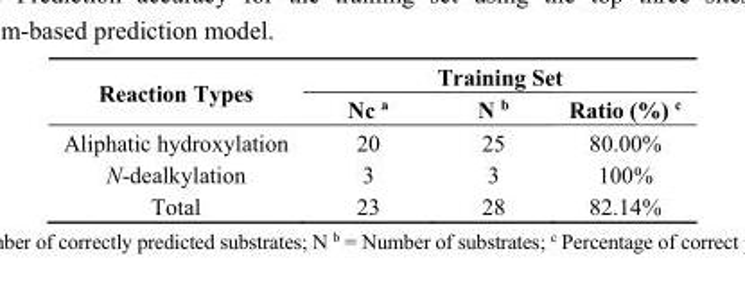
<table><thead><tr><td rowspan="2">Reaction Types</td><td colspan="3">Training Set</td></tr><tr><td>Nc <sup>a</sup></td><td>N <sup>b</sup></td><td>Ratio (%) <sup>c</sup></td></tr></thead><tbody><tr><td>Aliphatic hydroxylation</td><td>20</td><td>25</td><td>80.00%</td></tr><tr><td>N-dealkylation</td><td>3</td><td>3</td><td>100%</td></tr><tr><td>Total</td><td>23</td><td>28</td><td>82.14%</td></tr></tbody></table>